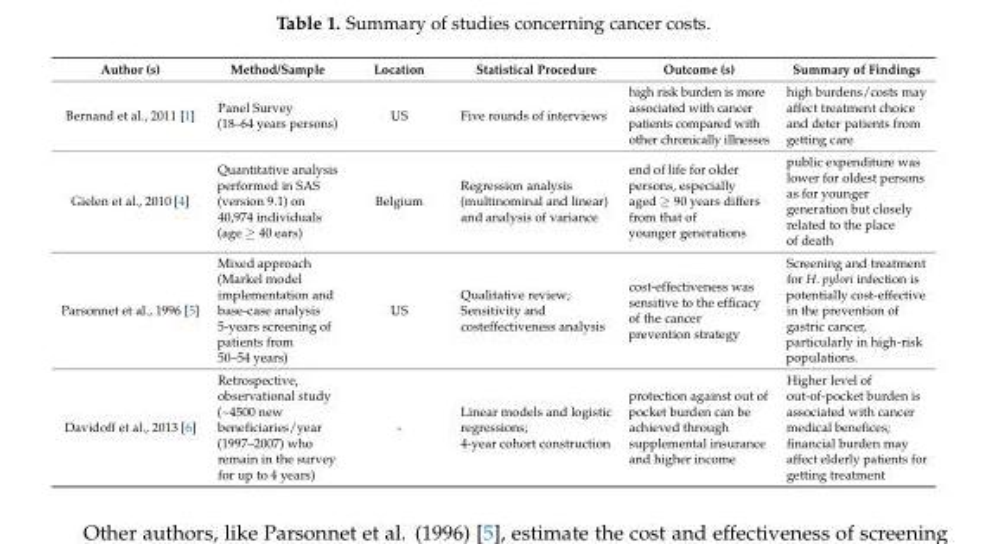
<table><thead><tr><td>Author (s)</td><td>Method/Sample</td><td>Location</td><td>Statistical Procedure</td><td>Outcome (s)</td><td>Summary of Findings</td></tr></thead><tbody><tr><td>Bernand et al., 2011 [1]</td><td>Panel Survey (18–64 years persons)</td><td>US</td><td>Five rounds of interviews</td><td>high risk burden is more associated with cancer patients compared with other chronically illnesses</td><td>high burdens/costs may affect treatment choice and deter patients from getting care</td></tr><tr><td>Gielen et al., 2010 [4]</td><td>Quantitative analysis performed in SAS (version 9.1) on 40,974 individuals (age ≥ 40 ears)</td><td>Belgium</td><td>Regression analysis (multinominal and linear) and analysis of variance</td><td>end of life for older persons, especially aged ≥ 90 years differs from that of younger generations</td><td>public expenditure was lower for oldest persons as for younger generation but closely related to the place of death</td></tr><tr><td>Parsonnet et al., 1996 [5]</td><td>Mixed approach (Markel model implementation and base-case analysis 5-years screening of patients from 50–54 years)</td><td>US</td><td>Qualitative review; Sensitivity and costeffectiveness analysis</td><td>cost-effectiveness was sensitive to the efficacy of the cancer prevention strategy</td><td>Screening and treatment for H. pylori infection is potentially cost-effective in the prevention of gastric cancer, particularly in high-risk populations.</td></tr><tr><td>Davidoff et al., 2013 [6]</td><td>Retrospective, observational study (~4500 new beneficiaries/year (1997–2007) who remain in the survey for up to 4 years)</td><td>-</td><td>Linear models and logistic regressions; 4-year cohort construction</td><td>protection against out of pocket burden can be achieved through supplemental insurance and higher income</td><td>Higher level of out-of-pocket burden is associated with cancer medical benefices; financial burden may affect elderly patients for getting treatment</td></tr></tbody></table>